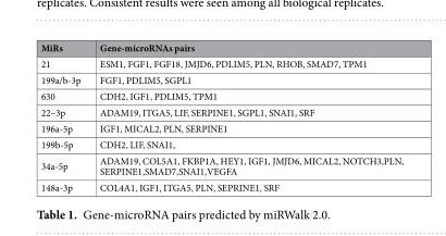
<table><thead><tr><td>MiRs</td><td>Gene-microRNAs pairs</td></tr></thead><tbody><tr><td>21</td><td>ESM1, FGF1, FGF18, JMJD6, PDLIM5, PLN, RHOB, SMAD7, TPM1</td></tr><tr><td>199a/b-3p</td><td>FGF1, PDLIM5, SGPL1</td></tr><tr><td>630</td><td>CDH2, IGF1, PDLIM5, TPM1</td></tr><tr><td>22–3p</td><td>ADAM19, ITGA5, LIF, SERPINE1, SGPL1, SNAI1, SRF</td></tr><tr><td>196a-5p</td><td>IGF1, MICAL2, PLN, SERPINE1</td></tr><tr><td>199b-5p</td><td>CDH2, LIF, SNAI1,</td></tr><tr><td>34a-5p</td><td>ADAM19, COL5A1, FKBP1A, HEY1, IGF1, JMJD6, MICAL2, NOTCH3,PLN, SERPINE1,SMAD7,SNAI1,VEGFA</td></tr><tr><td>148a-3p</td><td>COL4A1, IGF1, ITGA5, PLN, SEPRINE1, SRF</td></tr></tbody></table>